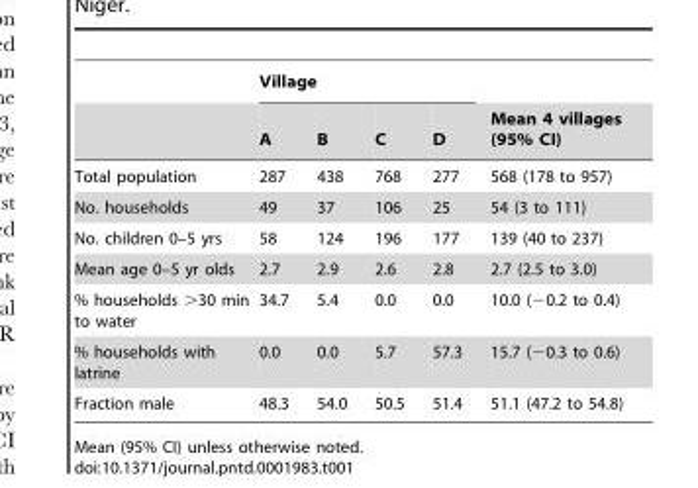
<table><thead><tr><td rowspan="2"></td><td colspan="4">Village</td><td rowspan="2">Mean 4 villages (95% CI)</td></tr><tr><td>A</td><td>B</td><td>C</td><td>D</td></tr></thead><tbody><tr><td>Total population</td><td>287</td><td>438</td><td>768</td><td>277</td><td>568 (178 to 957)</td></tr><tr><td>No. households</td><td>49</td><td>37</td><td>106</td><td>25</td><td>54 (3 to 111)</td></tr><tr><td>No. children 0–5 yrs</td><td>58</td><td>124</td><td>196</td><td>177</td><td>139 (40 to 237)</td></tr><tr><td>Mean age 0–5 yr olds</td><td>2.7</td><td>2.9</td><td>2.6</td><td>2.8</td><td>2.7 (2.5 to 3.0)</td></tr><tr><td>% households &gt;30 min to water</td><td>34.7</td><td>5.4</td><td>0.0</td><td>0.0</td><td>10.0 (−0.2 to 0.4)</td></tr><tr><td>% households with latrine</td><td>0.0</td><td>0.0</td><td>5.7</td><td>57.3</td><td>15.7 (−0.3 to 0.6)</td></tr><tr><td>Fraction male</td><td>48.3</td><td>54.0</td><td>50.5</td><td>51.4</td><td>51.1 (47.2 to 54.8)</td></tr></tbody></table>